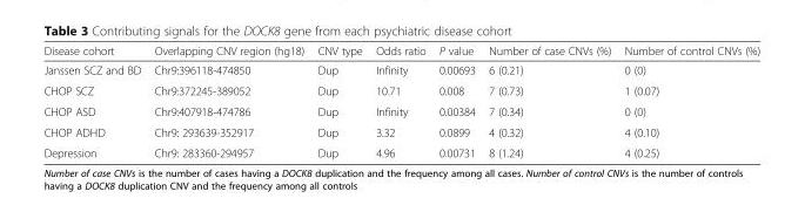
<table><thead><tr><td>Disease cohort</td><td>Overlapping CNV region (hg18)</td><td>CNV type</td><td>Odds ratio</td><td>P value</td><td>Number of case CNVs (%)</td><td>Number of control CNVs (%)</td></tr></thead><tbody><tr><td>Janssen SCZ and BD</td><td>Chr9:396118-474850</td><td>Dup</td><td>Infinity</td><td>0.00693</td><td>6 (0.21)</td><td>0 (0)</td></tr><tr><td>CHOP SCZ</td><td>Chr9:372245-389052</td><td>Dup</td><td>10.71</td><td>0.008</td><td>7 (0.73)</td><td>1 (0.07)</td></tr><tr><td>CHOP ASD</td><td>Chr9:407918-474786</td><td>Dup</td><td>Infinity</td><td>0.00384</td><td>7 (0.34)</td><td>0 (0)</td></tr><tr><td>CHOP ADHD</td><td>Chr9: 293639-352917</td><td>Dup</td><td>3.32</td><td>0.0899</td><td>4 (0.32)</td><td>4 (0.10)</td></tr><tr><td>Depression</td><td>Chr9: 283360-294957</td><td>Dup</td><td>4.96</td><td>0.00731</td><td>8 (1.24)</td><td>4 (0.25)</td></tr></tbody></table>